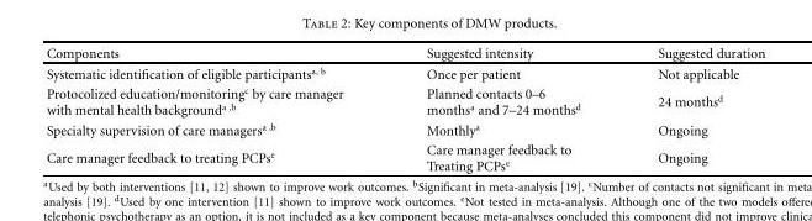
<table><thead><tr><td>Components</td><td>Suggested intensity</td><td>Suggested duration</td></tr></thead><tbody><tr><td>Systematic identification of eligible participants<sup>a, b</sup></td><td>Once per patient</td><td>Not applicable</td></tr><tr><td>Protocolized education/monitoring<sup>c</sup> by care manager with mental health background<sup>a ,b</sup></td><td>Planned contacts 0–6 months<sup>a</sup> and 7–24 months<sup>d</sup></td><td>24 months<sup>d</sup></td></tr><tr><td>Specialty supervision of care managers<sup>a ,b</sup></td><td>Monthly<sup>a</sup></td><td>Ongoing</td></tr><tr><td>Care manager feedback to treating PCPs<sup>e</sup></td><td>Care manager feedback to Treating PCPs<sup>e</sup></td><td>Ongoing</td></tr></tbody></table>